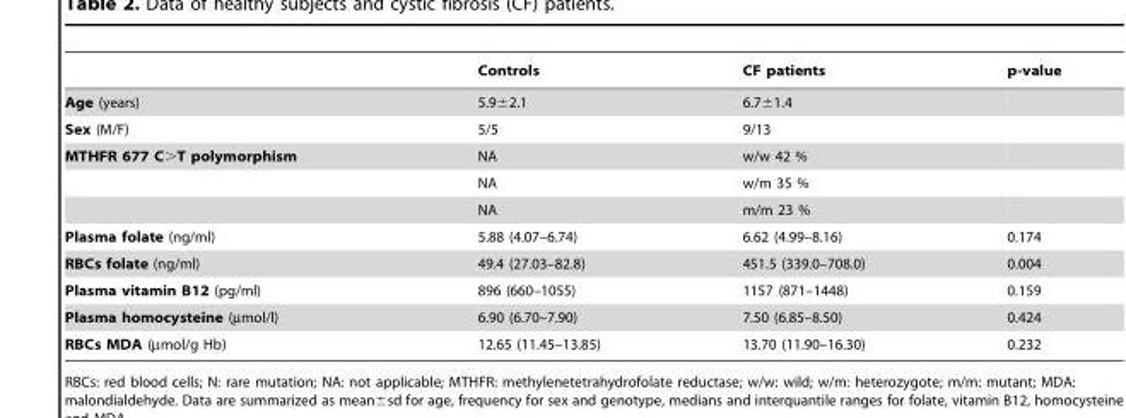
<table><thead><tr><td></td><td>Controls</td><td>CF patients</td><td>p-value</td></tr></thead><tbody><tr><td>Age (years)</td><td>5.9±2.1</td><td>6.7±1.4</td><td></td></tr><tr><td>Sex (M/F)</td><td>5/5</td><td>9/13</td><td></td></tr><tr><td rowspan="3">MTHFR 677 C&gt;T polymorphism</td><td>NA</td><td>w/w 42 %</td><td></td></tr><tr><td>NA</td><td>w/m 35 %</td><td></td></tr><tr><td>NA</td><td>m/m 23 %</td><td></td></tr><tr><td>Plasma folate (ng/ml)</td><td>5.88 (4.07–6.74)</td><td>6.62 (4.99–8.16)</td><td>0.174</td></tr><tr><td>RBCs folate (ng/ml)</td><td>49.4 (27.03–82.8)</td><td>451.5 (339.0–708.0)</td><td>0.004</td></tr><tr><td>Plasma vitamin B12 (pg/ml)</td><td>896 (660–1055)</td><td>1157 (871–1448)</td><td>0.159</td></tr><tr><td>Plasma homocysteine (µmol/l)</td><td>6.90 (6.70–7.90)</td><td>7.50 (6.85–8.50)</td><td>0.424</td></tr><tr><td>RBCs MDA (µmol/g Hb)</td><td>12.65 (11.45–13.85)</td><td>13.70 (11.90–16.30)</td><td>0.232</td></tr></tbody></table>